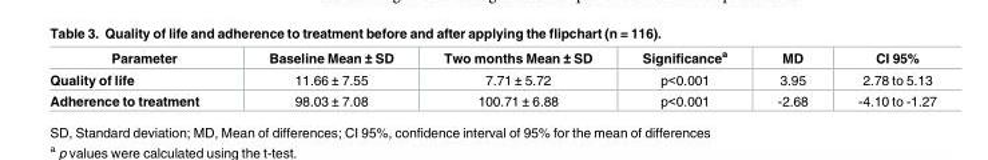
<table><thead><tr><td>Parameter</td><td>Baseline Mean ± SD</td><td>Two months Mean ± SD</td><td>Significance<sup>a</sup></td><td>MD</td><td>CI 95%</td></tr></thead><tbody><tr><td>Quality of life</td><td>11.66 ± 7.55</td><td>7.71 ± 5.72</td><td>p&lt;0.001</td><td>3.95</td><td>2.78 to 5.13</td></tr><tr><td>Adherence to treatment</td><td>98.03 ± 7.08</td><td>100.71 ± 6.88</td><td>p&lt;0.001</td><td>-2.68</td><td>-4.10 to -1.27</td></tr></tbody></table>